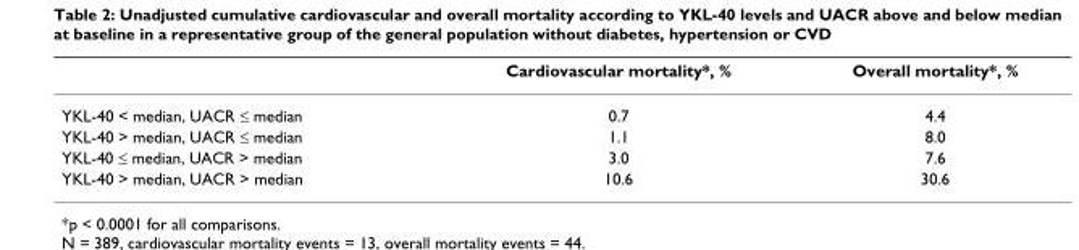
<table><thead><tr><td></td><td>Cardiovascular mortality*, %</td><td>Overall mortality*, %</td></tr></thead><tbody><tr><td>YKL-40 &lt; median, UACR ≤ median</td><td>0.7</td><td>4.4</td></tr><tr><td>YKL-40 &gt; median, UACR ≤ median</td><td>1.1</td><td>8.0</td></tr><tr><td>YKL-40 ≤ median, UACR &gt; median</td><td>3.0</td><td>7.6</td></tr><tr><td>YKL-40 &gt; median, UACR &gt; median</td><td>10.6</td><td>30.6</td></tr></tbody></table>